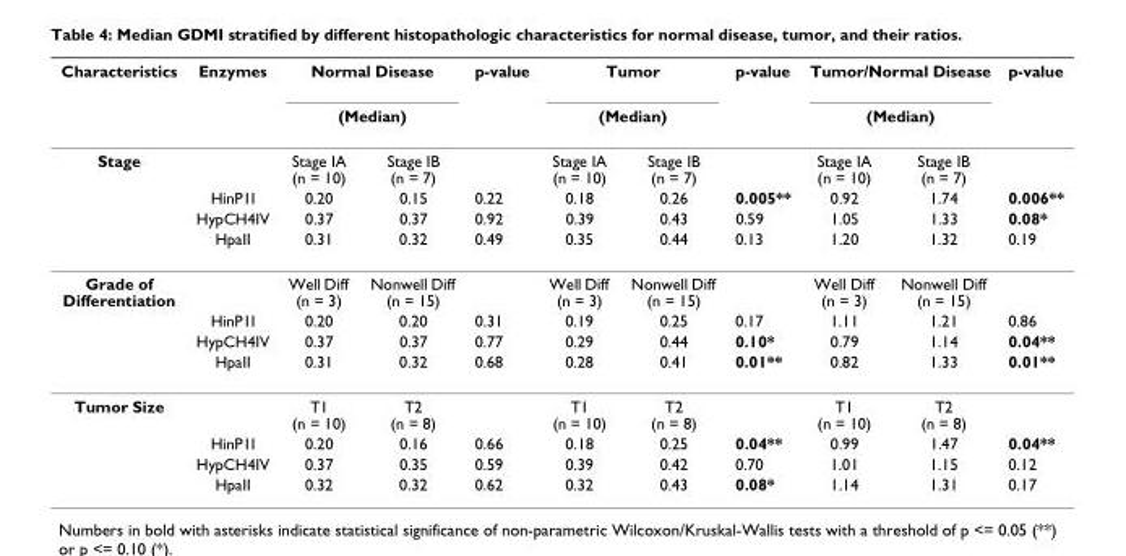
<table><thead><tr><td rowspan="3">Characteristics Stage</td><td rowspan="3">Enzymes</td><td rowspan="2" colspan="2">Normal Disease (Median)</td><td rowspan="3">p-value</td><td rowspan="2" colspan="2">Tumor (Median)</td><td rowspan="3">p-value</td><td rowspan="2" colspan="2">Tumor/Normal Disease (Median)</td><td rowspan="3">p-value</td></tr><tr></tr><tr><td>Stage IA (n = 10)</td><td>Stage IB (n = 7)</td><td>Stage IA (n = 10)</td><td>Stage IB (n = 7)</td><td>Stage IA (n = 10)</td><td>Stage IB (n = 7)</td></tr></thead><tbody><tr><td></td><td>HinP1I</td><td>0.20</td><td>0.15</td><td>0.22</td><td>0.18</td><td>0.26</td><td>0.005**</td><td>0.92</td><td>1.74</td><td>0.006**</td></tr><tr><td></td><td>HypCH4IV</td><td>0.37</td><td>0.37</td><td>0.92</td><td>0.39</td><td>0.43</td><td>0.59</td><td>1.05</td><td>1.33</td><td>0.08*</td></tr><tr><td></td><td>HpaII</td><td>0.31</td><td>0.32</td><td>0.49</td><td>0.35</td><td>0.44</td><td>0.13</td><td>1.20</td><td>1.32</td><td>0.19</td></tr><tr><td rowspan="4">Grade of Differentiation</td><td></td><td>Well Diff (n = 3)</td><td>Nonwell Diff (n = 15)</td><td></td><td>Well Diff (n = 3)</td><td>Nonwell Diff (n = 15)</td><td></td><td>Well Diff (n = 3)</td><td>Nonwell Diff (n = 15)</td><td></td></tr><tr><td>HinP1I</td><td>0.20</td><td>0.20</td><td>0.31</td><td>0.19</td><td>0.25</td><td>0.17</td><td>1.11</td><td>1.21</td><td>0.86</td></tr><tr><td>HypCH4IV</td><td>0.37</td><td>0.37</td><td>0.77</td><td>0.29</td><td>0.44</td><td>0.10*</td><td>0.79</td><td>1.14</td><td>0.04**</td></tr><tr><td>HpaII</td><td>0.31</td><td>0.32</td><td>0.68</td><td>0.28</td><td>0.41</td><td>0.01**</td><td>0.82</td><td>1.33</td><td>0.01**</td></tr><tr><td rowspan="4">Tumor Size</td><td></td><td>T1 (n = 10)</td><td>T2 (n = 8)</td><td></td><td>T1 (n = 10)</td><td>T2 (n = 8)</td><td></td><td>T1 (n = 10)</td><td>T2 (n = 8)</td><td></td></tr><tr><td>HinP1I</td><td>0.20</td><td>0.16</td><td>0.66</td><td>0.18</td><td>0.25</td><td>0.04**</td><td>0.99</td><td>1.47</td><td>0.04**</td></tr><tr><td>HypCH4IV</td><td>0.37</td><td>0.35</td><td>0.59</td><td>0.39</td><td>0.42</td><td>0.70</td><td>1.01</td><td>1.15</td><td>0.12</td></tr><tr><td>HpaII</td><td>0.32</td><td>0.32</td><td>0.62</td><td>0.32</td><td>0.43</td><td>0.08*</td><td>1.14</td><td>1.31</td><td>0.17</td></tr></tbody></table>